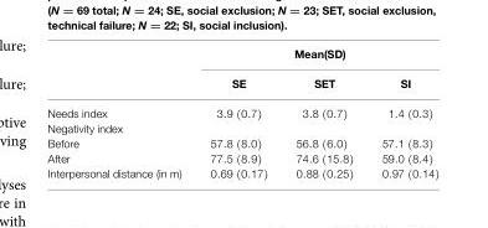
<table><thead><tr><td rowspan="2"></td><td colspan="3">Mean(SD)</td></tr><tr><td>SE</td><td>SET</td><td>SI</td></tr></thead><tbody><tr><td>Needs index</td><td>3.9 (0.7)</td><td>3.8 (0.7)</td><td>1.4 (0.3)</td></tr><tr><td colspan="4">Negativity index</td></tr><tr><td>Before</td><td>57.8 (8.0)</td><td>56.8 (6.0)</td><td>57.1 (8.3)</td></tr><tr><td>After</td><td>77.5 (8.9)</td><td>74.6 (15.8)</td><td>59.0 (8.4)</td></tr><tr><td>Interpersonal distance (in m)</td><td>0.69 (0.17)</td><td>0.88 (0.25)</td><td>0.97 (0.14)</td></tr></tbody></table>